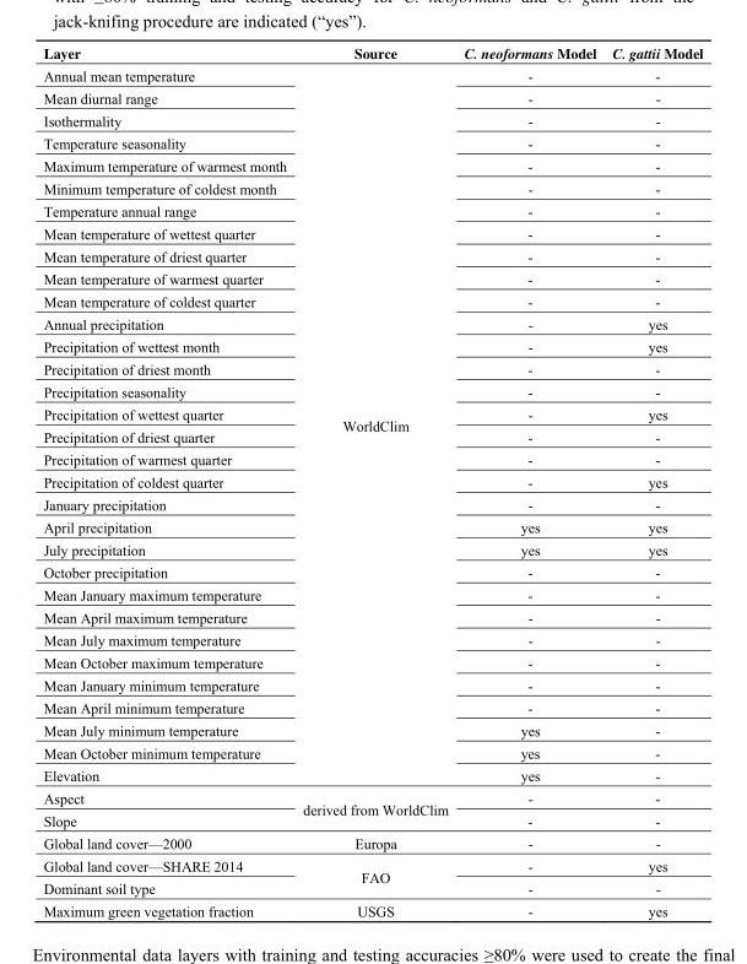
<table><thead><tr><td>Layer</td><td>Source</td><td>C. neoformans Model</td><td>C. gattii Model</td></tr></thead><tbody><tr><td>Annual mean temperature</td><td rowspan="32">WorldClim</td><td>-</td><td>-</td></tr><tr><td>Mean diurnal range</td><td>-</td><td>-</td></tr><tr><td>Isothermality</td><td>-</td><td>-</td></tr><tr><td>Temperature seasonality</td><td>-</td><td>-</td></tr><tr><td>Maximum temperature of warmest month</td><td>-</td><td>-</td></tr><tr><td>Minimum temperature of coldest month</td><td>-</td><td>-</td></tr><tr><td>Temperature annual range</td><td>-</td><td>-</td></tr><tr><td>Mean temperature of wettest quarter</td><td>-</td><td>-</td></tr><tr><td>Mean temperature of driest quarter</td><td>-</td><td>-</td></tr><tr><td>Mean temperature of warmest quarter</td><td>-</td><td>-</td></tr><tr><td>Mean temperature of coldest quarter</td><td>-</td><td>-</td></tr><tr><td>Annual precipitation</td><td>-</td><td>yes</td></tr><tr><td>Precipitation of wettest month</td><td>-</td><td>yes</td></tr><tr><td>Precipitation of driest month</td><td>-</td><td>-</td></tr><tr><td>Precipitation seasonality</td><td>-</td><td>-</td></tr><tr><td>Precipitation of wettest quarter</td><td>-</td><td>yes</td></tr><tr><td>Precipitation of driest quarter</td><td>-</td><td>-</td></tr><tr><td>Precipitation of warmest quarter</td><td>-</td><td>-</td></tr><tr><td>Precipitation of coldest quarter</td><td>-</td><td>yes</td></tr><tr><td>January precipitation</td><td>-</td><td>-</td></tr><tr><td>April precipitation</td><td>yes</td><td>yes</td></tr><tr><td>July precipitation</td><td>yes</td><td>yes</td></tr><tr><td>October precipitation</td><td>-</td><td>-</td></tr><tr><td>Mean January maximum temperature</td><td>-</td><td>-</td></tr><tr><td>Mean April maximum temperature</td><td>-</td><td>-</td></tr><tr><td>Mean July maximum temperature</td><td>-</td><td>-</td></tr><tr><td>Mean October maximum temperature</td><td>-</td><td>-</td></tr><tr><td>Mean January minimum temperature</td><td>-</td><td>-</td></tr><tr><td>Mean April minimum temperature</td><td>-</td><td>-</td></tr><tr><td>Mean July minimum temperature</td><td>yes</td><td>-</td></tr><tr><td>Mean October minimum temperature</td><td>yes</td><td>-</td></tr><tr><td>Elevation</td><td>yes</td><td>-</td></tr><tr><td>Aspect</td><td rowspan="2">derived from WorldClim</td><td>-</td><td>-</td></tr><tr><td>Slope</td><td>-</td><td>-</td></tr><tr><td>Global land cover—2000</td><td>Europa</td><td>-</td><td>-</td></tr><tr><td>Global land cover—SHARE 2014</td><td rowspan="2">FAO</td><td>-</td><td>yes</td></tr><tr><td>Dominant soil type</td><td>-</td><td>-</td></tr><tr><td>Maximum green vegetation fraction</td><td>USGS</td><td>-</td><td>yes</td></tr></tbody></table>